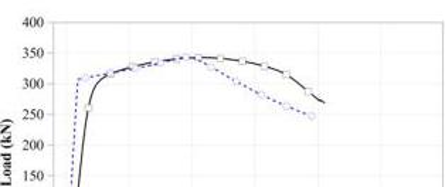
<table><thead><tr><td colspan="2">Parameter of Analysis Model</td></tr><tr><td>Corroded depth</td><td>0.5, 1, 1.5, 2 mm</td></tr></thead><tbody><tr><td>Corroded height</td><td>60, 120, 180, 240, 300 mm</td></tr><tr><td>Corroded width</td><td>28, 56, 84, 112, 140, 280 mm</td></tr></tbody></table>